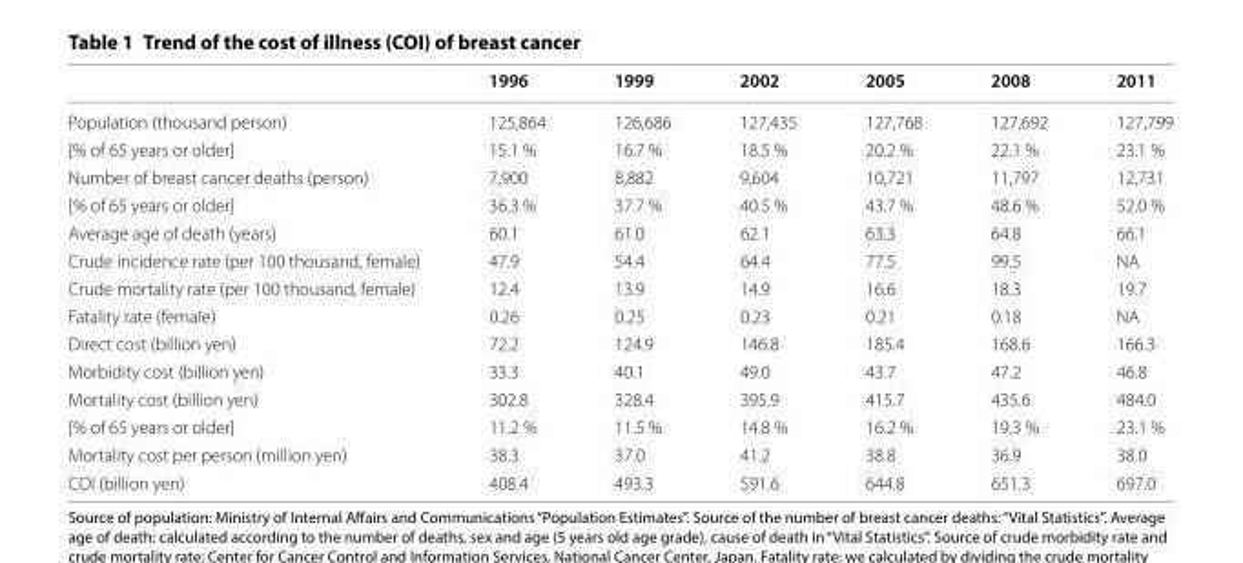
<table><thead><tr><td></td><td>1996</td><td>1999</td><td>2002</td><td>2005</td><td>2008</td><td>2011</td></tr></thead><tbody><tr><td>Population (thousand person)</td><td>125,864</td><td>126,686</td><td>127,435</td><td>127,768</td><td>127,692</td><td>127,799</td></tr><tr><td>[% of 65 years or older]</td><td>15.1 %</td><td>16.7 %</td><td>18.5 %</td><td>20.2 %</td><td>22.1 %</td><td>23.1 %</td></tr><tr><td>Number of breast cancer deaths (person)</td><td>7,900</td><td>8,882</td><td>9,604</td><td>10,721</td><td>11,797</td><td>12,731</td></tr><tr><td>[% of 65 years or older]</td><td>36.3 %</td><td>37.7 %</td><td>40.5 %</td><td>43.7 %</td><td>48.6 %</td><td>52.0 %</td></tr><tr><td>Average age of death (years)</td><td>60.1</td><td>61.0</td><td>62.1</td><td>63.3</td><td>64.8</td><td>66.1</td></tr><tr><td>Crude incidence rate (per 100 thousand, female)</td><td>47.9</td><td>54.4</td><td>64.4</td><td>77.5</td><td>99.5</td><td>NA</td></tr><tr><td>Crude mortality rate (per 100 thousand, female)</td><td>12.4</td><td>13.9</td><td>14.9</td><td>16.6</td><td>18.3</td><td>19.7</td></tr><tr><td>Fatality rate (female)</td><td>0.26</td><td>0.25</td><td>0.23</td><td>0.21</td><td>0.18</td><td>NA</td></tr><tr><td>Direct cost (billion yen)</td><td>72.2</td><td>124.9</td><td>146.8</td><td>185.4</td><td>168.6</td><td>166.3</td></tr><tr><td>Morbidity cost (billion yen)</td><td>33.3</td><td>40.1</td><td>49.0</td><td>43.7</td><td>47.2</td><td>46.8</td></tr><tr><td>Mortality cost (billion yen)</td><td>302.8</td><td>328.4</td><td>395.9</td><td>415.7</td><td>435.6</td><td>484.0</td></tr><tr><td>[% of 65 years or older]</td><td>11.2 %</td><td>11.5 %</td><td>14.8 %</td><td>16.2 %</td><td>19.3 %</td><td>23.1 %</td></tr><tr><td>Mortality cost per person (million yen)</td><td>38.3</td><td>37.0</td><td>41.2</td><td>38.8</td><td>36.9</td><td>38.0</td></tr><tr><td>COI (billion yen)</td><td>408.4</td><td>493.3</td><td>591.6</td><td>644.8</td><td>651.3</td><td>697.0</td></tr></tbody></table>